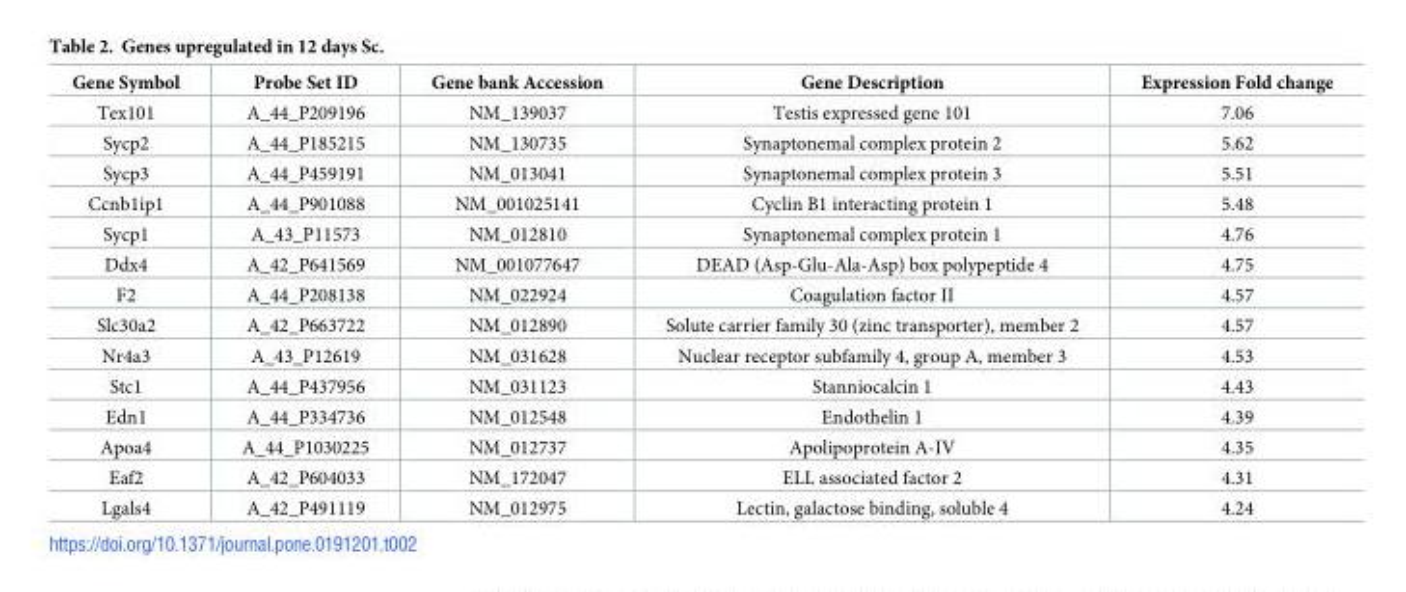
<table><thead><tr><td>Gene Symbol</td><td>Probe Set ID</td><td>Gene bank Accession</td><td>Gene Description</td><td>Expression Fold change</td></tr></thead><tbody><tr><td>Tex101</td><td>A_44_P209196</td><td>NM_139037</td><td>Testis expressed gene 101</td><td>7.06</td></tr><tr><td>Sycp2</td><td>A_44_P185215</td><td>NM_130735</td><td>Synaptonemal complex protein 2</td><td>5.62</td></tr><tr><td>Sycp3</td><td>A_44_P459191</td><td>NM_013041</td><td>Synaptonemal complex protein 3</td><td>5.51</td></tr><tr><td>Ccnb1ip1</td><td>A_44_P901088</td><td>NM_001025141</td><td>Cyclin B1 interacting protein 1</td><td>5.48</td></tr><tr><td>Sycp1</td><td>A_43_P11573</td><td>NM_012810</td><td>Synaptonemal complex protein 1</td><td>4.76</td></tr><tr><td>Ddx4</td><td>A_42_P641569</td><td>NM_001077647</td><td>DEAD (Asp-Glu-Ala-Asp) box polypeptide 4</td><td>4.75</td></tr><tr><td>F2</td><td>A_44_P208138</td><td>NM_022924</td><td>Coagulation factor II</td><td>4.57</td></tr><tr><td>Slc30a2</td><td>A_42_P663722</td><td>NM_012890</td><td>Solute carrier family 30 (zinc transporter), member 2</td><td>4.57</td></tr><tr><td>Nr4a3</td><td>A_43_P12619</td><td>NM_031628</td><td>Nuclear receptor subfamily 4, group A, member 3</td><td>4.53</td></tr><tr><td>Stc1</td><td>A_44_P437956</td><td>NM_031123</td><td>Stanniocalcin 1</td><td>4.43</td></tr><tr><td>Edn1</td><td>A_44_P334736</td><td>NM_012548</td><td>Endothelin 1</td><td>4.39</td></tr><tr><td>Apoa4</td><td>A_44_P1030225</td><td>NM_012737</td><td>Apolipoprotein A-IV</td><td>4.35</td></tr><tr><td>Eaf2</td><td>A_42_P604033</td><td>NM_172047</td><td>ELL associated factor 2</td><td>4.31</td></tr><tr><td>Lgals4</td><td>A_42_P491119</td><td>NM_012975</td><td>Lectin, galactose binding, soluble 4</td><td>4.24</td></tr></tbody></table>